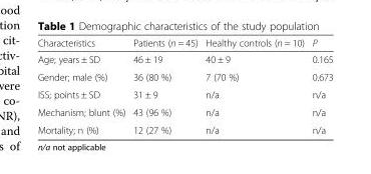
<table><thead><tr><td>Characteristics</td><td>Patients (n = 45)</td><td>Healthy controls (n = 10)</td><td>P</td></tr></thead><tbody><tr><td>Age; years ± SD</td><td>46 ± 19</td><td>40 ± 9</td><td>0.165</td></tr><tr><td>Gender; male (%)</td><td>36 (80 %)</td><td>7 (70 %)</td><td>0.673</td></tr><tr><td>ISS; points ± SD</td><td>31 ± 9</td><td>n/a</td><td>n/a</td></tr><tr><td>Mechanism; blunt (%)</td><td>43 (96 %)</td><td>n/a</td><td>n/a</td></tr><tr><td>Mortality; n (%)</td><td>12 (27 %)</td><td>n/a</td><td>n/a</td></tr></tbody></table>